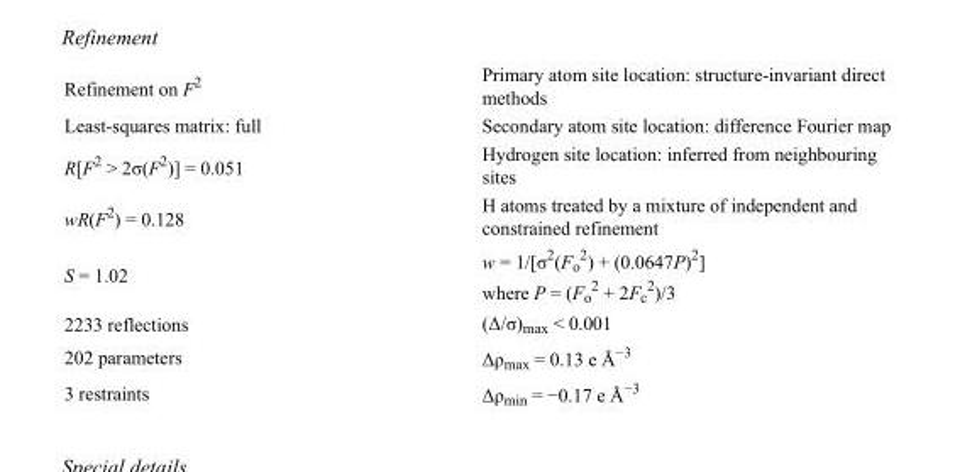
<table><tbody><tr><td>Refinement on F<sup>2</sup></td><td>Primary atom site location: structure-invariant direct methods</td></tr><tr><td>Least-squares matrix: full</td><td>Secondary atom site location: difference Fourier map</td></tr><tr><td>R[F<sup>2</sup> &gt; 2σ(F<sup>2</sup>)] = 0.051</td><td>Hydrogen site location: inferred from neighbouring sites</td></tr><tr><td>wR(F<sup>2</sup>) = 0.128</td><td>H atoms treated by a mixture of independent and constrained refinement</td></tr><tr><td>S = 1.02</td><td>w = 1/[σ<sup>2</sup>(F<sub>o</sub> <sup>2</sup>) + (0.0647P)<sup>2</sup>] where P = (F<sub>o</sub> <sup>2</sup> + 2F<sub>c</sub> <sup>2</sup>)/3</td></tr><tr><td>2233 reflections</td><td>(Δ/σ)<sub>max</sub> &lt; 0.001</td></tr><tr><td>202 parameters</td><td>Δρ<sub>max</sub> = 0.13 e Å<sup>−3</sup></td></tr><tr><td>3 restraints</td><td>Δρ<sub>min</sub> = −0.17 e Å<sup>−3</sup></td></tr></tbody></table>